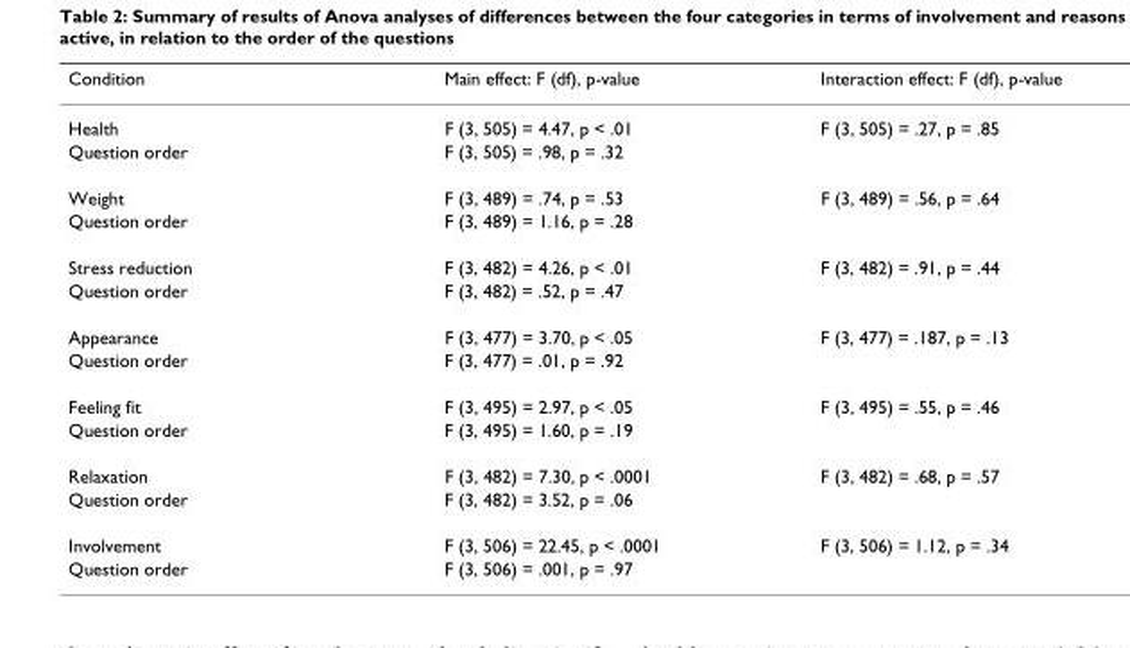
<table><thead><tr><td>Condition</td><td>Main effect: F (df), p-value</td><td>Interaction effect: F (df), p-value</td></tr></thead><tbody><tr><td>Health</td><td>F (3, 505) = 4.47, p &lt; .01</td><td>F (3, 505) = .27, p = .85</td></tr><tr><td>Question order</td><td>F (3, 505) = .98, p = .32</td><td></td></tr><tr><td>Weight</td><td>F (3, 489) = .74, p = .53</td><td>F (3, 489) = .56, p = .64</td></tr><tr><td>Question order</td><td>F (3, 489) = 1.16, p = .28</td><td></td></tr><tr><td>Stress reduction</td><td>F (3, 482) = 4.26, p &lt; .01</td><td>F (3, 482) = .91, p = .44</td></tr><tr><td>Question order</td><td>F (3, 482) = .52, p = .47</td><td></td></tr><tr><td>Appearance</td><td>F (3, 477) = 3.70, p &lt; .05</td><td>F (3, 477) = .187, p = .13</td></tr><tr><td>Question order</td><td>F (3, 477) = .01, p = .92</td><td></td></tr><tr><td>Feeling fit</td><td>F (3, 495) = 2.97, p &lt; .05</td><td>F (3, 495) = .55, p = .46</td></tr><tr><td>Question order</td><td>F (3, 495) = 1.60, p = .19</td><td></td></tr><tr><td>Relaxation</td><td>F (3, 482) = 7.30, p &lt; .0001</td><td>F (3, 482) = .68, p = .57</td></tr><tr><td>Question order</td><td>F (3, 482) = 3.52, p = .06</td><td></td></tr><tr><td>Involvement</td><td>F (3, 506) = 22.45, p &lt; .0001</td><td>F (3, 506) = 1.12, p = .34</td></tr><tr><td>Question order</td><td>F (3, 506) = .001, p = .97</td><td></td></tr></tbody></table>